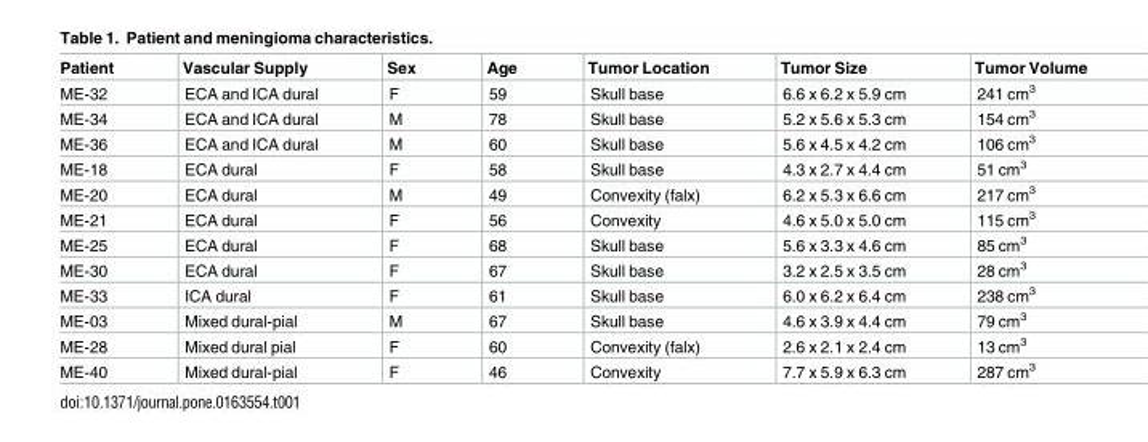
<table><thead><tr><td>Patient</td><td>Vascular Supply</td><td>Sex</td><td>Age</td><td>Tumor Location</td><td>Tumor Size</td><td>Tumor Volume</td></tr></thead><tbody><tr><td>ME-32</td><td>ECA and ICA dural</td><td>F</td><td>59</td><td>Skull base</td><td>6.6 x 6.2 x 5.9 cm</td><td>241 cm<sup>3</sup></td></tr><tr><td>ME-34</td><td>ECA and ICA dural</td><td>M</td><td>78</td><td>Skull base</td><td>5.2 x 5.6 x 5.3 cm</td><td>154 cm<sup>3</sup></td></tr><tr><td>ME-36</td><td>ECA and ICA dural</td><td>M</td><td>60</td><td>Skull base</td><td>5.6 x 4.5 x 4.2 cm</td><td>106 cm<sup>3</sup></td></tr><tr><td>ME-18</td><td>ECA dural</td><td>F</td><td>58</td><td>Skull base</td><td>4.3 x 2.7 x 4.4 cm</td><td>51 cm<sup>3</sup></td></tr><tr><td>ME-20</td><td>ECA dural</td><td>M</td><td>49</td><td>Convexity (falx)</td><td>6.2 x 5.3 x 6.6 cm</td><td>217 cm<sup>3</sup></td></tr><tr><td>ME-21</td><td>ECA dural</td><td>F</td><td>56</td><td>Convexity</td><td>4.6 x 5.0 x 5.0 cm</td><td>115 cm<sup>3</sup></td></tr><tr><td>ME-25</td><td>ECA dural</td><td>F</td><td>68</td><td>Skull base</td><td>5.6 x 3.3 x 4.6 cm</td><td>85 cm<sup>3</sup></td></tr><tr><td>ME-30</td><td>ECA dural</td><td>F</td><td>67</td><td>Skull base</td><td>3.2 x 2.5 x 3.5 cm</td><td>28 cm<sup>3</sup></td></tr><tr><td>ME-33</td><td>ICA dural</td><td>F</td><td>61</td><td>Skull base</td><td>6.0 x 6.2 x 6.4 cm</td><td>238 cm<sup>3</sup></td></tr><tr><td>ME-03</td><td>Mixed dural-pial</td><td>M</td><td>67</td><td>Skull base</td><td>4.6 x 3.9 x 4.4 cm</td><td>79 cm<sup>3</sup></td></tr><tr><td>ME-28</td><td>Mixed dural pial</td><td>F</td><td>60</td><td>Convexity (falx)</td><td>2.6 x 2.1 x 2.4 cm</td><td>13 cm<sup>3</sup></td></tr><tr><td>ME-40</td><td>Mixed dural-pial</td><td>F</td><td>46</td><td>Convexity</td><td>7.7 x 5.9 x 6.3 cm</td><td>287 cm<sup>3</sup></td></tr></tbody></table>